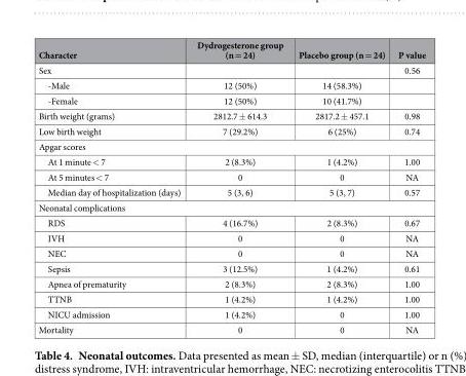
<table><thead><tr><td>Character</td><td>Dydrogesterone group (n = 24)</td><td>Placebo group (n = 24)</td><td>P value</td></tr></thead><tbody><tr><td>Sex</td><td></td><td></td><td>0.56</td></tr><tr><td>-Male</td><td>12 (50%)</td><td>14 (58.3%)</td><td></td></tr><tr><td>-Female</td><td>12 (50%)</td><td>10 (41.7%)</td><td></td></tr><tr><td>Birth weight (grams)</td><td>2812.7 ± 614.3</td><td>2817.2 ± 457.1</td><td>0.98</td></tr><tr><td>Low birth weight</td><td>7 (29.2%)</td><td>6 (25%)</td><td>0.74</td></tr><tr><td colspan="4">Apgar scores</td></tr><tr><td>At 1 minute &lt; 7</td><td>2 (8.3%)</td><td>1 (4.2%)</td><td>1.00</td></tr><tr><td>At 5 minutes &lt; 7</td><td>0</td><td>0</td><td>NA</td></tr><tr><td>Median day of hospitalization (days)</td><td>5 (3, 6)</td><td>5 (3, 7)</td><td>0.57</td></tr><tr><td colspan="4">Neonatal complications</td></tr><tr><td>RDS</td><td>4 (16.7%)</td><td>2 (8.3%)</td><td>0.67</td></tr><tr><td>IVH</td><td>0</td><td>0</td><td>NA</td></tr><tr><td>NEC</td><td>0</td><td>0</td><td>NA</td></tr><tr><td>Sepsis</td><td>3 (12.5%)</td><td>1 (4.2%)</td><td>0.61</td></tr><tr><td>Apnea of prematurity</td><td>2 (8.3%)</td><td>2 (8.3%)</td><td>1.00</td></tr><tr><td>TTNB</td><td>1 (4.2%)</td><td>1 (4.2%)</td><td>1.00</td></tr><tr><td>NICU admission</td><td>1 (4.2%)</td><td>0</td><td>1.00</td></tr><tr><td>Mortality</td><td>0</td><td>0</td><td>NA</td></tr></tbody></table>